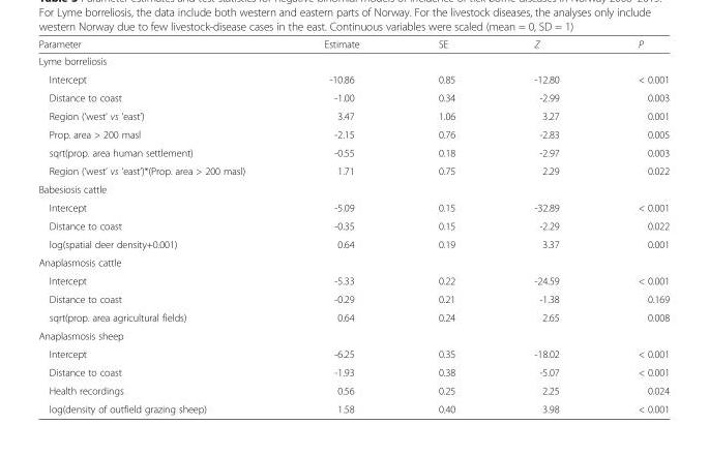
<table><thead><tr><td>Parameter</td><td>Estimate</td><td>SE</td><td>Z</td><td>P</td></tr></thead><tbody><tr><td colspan="5">Lyme borreliosis</td></tr><tr><td>Intercept</td><td>-10.86</td><td>0.85</td><td>-12.80</td><td>&lt; 0.001</td></tr><tr><td>Distance to coast</td><td>-1.00</td><td>0.34</td><td>-2.99</td><td>0.003</td></tr><tr><td>Region (‘west’ vs ‘east’)</td><td>3.47</td><td>1.06</td><td>3.27</td><td>0.001</td></tr><tr><td>Prop. area &gt; 200 masl</td><td>-2.15</td><td>0.76</td><td>-2.83</td><td>0.005</td></tr><tr><td>sqrt(prop. area human settlement)</td><td>-0.55</td><td>0.18</td><td>-2.97</td><td>0.003</td></tr><tr><td>Region (‘west’ vs ‘east’)*(Prop. area &gt; 200 masl)</td><td>1.71</td><td>0.75</td><td>2.29</td><td>0.022</td></tr><tr><td colspan="5">Babesiosis cattle</td></tr><tr><td>Intercept</td><td>-5.09</td><td>0.15</td><td>-32.89</td><td>&lt; 0.001</td></tr><tr><td>Distance to coast</td><td>-0.35</td><td>0.15</td><td>-2.29</td><td>0.022</td></tr><tr><td>log(spatial deer density+0.001)</td><td>0.64</td><td>0.19</td><td>3.37</td><td>0.001</td></tr><tr><td colspan="5">Anaplasmosis cattle</td></tr><tr><td>Intercept</td><td>-5.33</td><td>0.22</td><td>-24.59</td><td>&lt; 0.001</td></tr><tr><td>Distance to coast</td><td>-0.29</td><td>0.21</td><td>-1.38</td><td>0.169</td></tr><tr><td>sqrt(prop. area agricultural fields)</td><td>0.64</td><td>0.24</td><td>2.65</td><td>0.008</td></tr><tr><td colspan="5">Anaplasmosis sheep</td></tr><tr><td>Intercept</td><td>-6.25</td><td>0.35</td><td>-18.02</td><td>&lt; 0.001</td></tr><tr><td>Distance to coast</td><td>-1.93</td><td>0.38</td><td>-5.07</td><td>&lt; 0.001</td></tr><tr><td>Health recordings</td><td>0.56</td><td>0.25</td><td>2.25</td><td>0.024</td></tr><tr><td>log(density of outfield grazing sheep)</td><td>1.58</td><td>0.40</td><td>3.98</td><td>&lt; 0.001</td></tr></tbody></table>